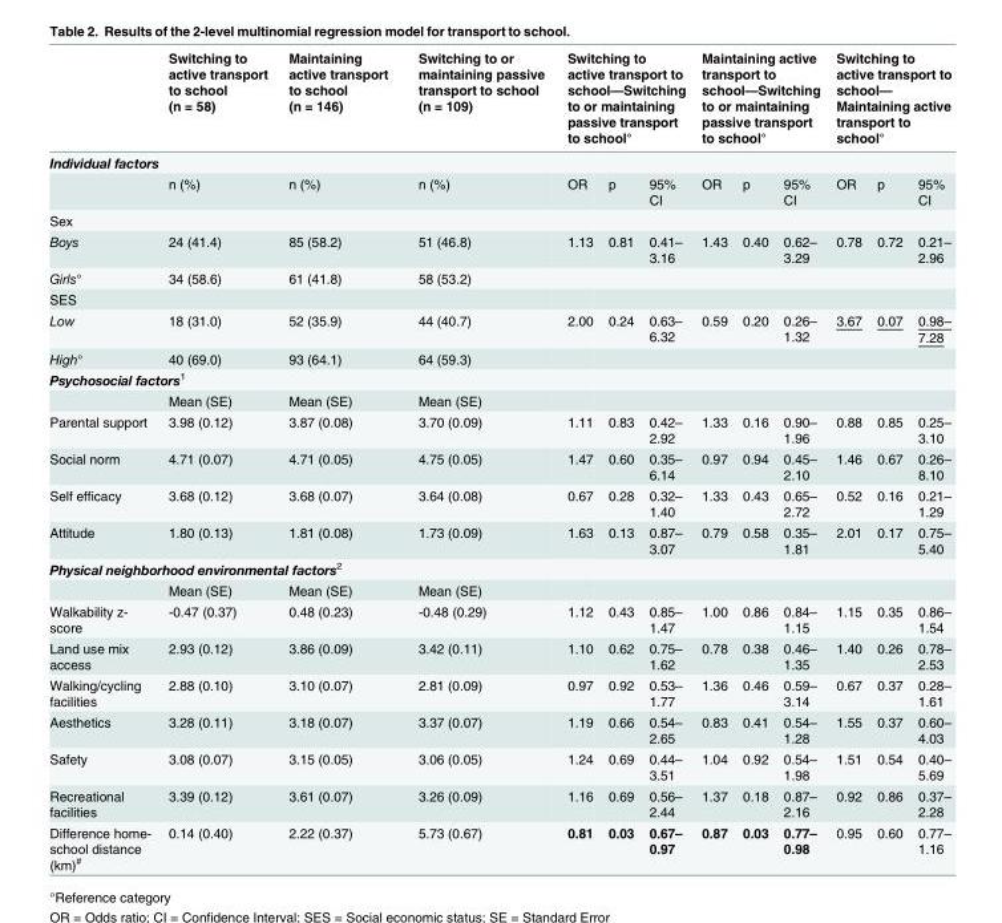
<table><thead><tr><td></td><td>Switching to active transport to school (n = 58)</td><td>Maintaining active transport to school (n = 146)</td><td>Switching to or maintaining passive transport to school (n = 109)</td><td colspan="3">Switching to active transport to school—Switching to or maintaining passive transport to school°</td><td colspan="3">Maintaining active transport to school—Switching to or maintaining passive transport to school°</td><td colspan="3">Switching to active transport to school— Maintaining active transport to school°</td></tr><tr><td colspan="4">Individual factors</td><td colspan="9"></td></tr><tr><td></td><td>n (%)</td><td>n (%)</td><td>n (%)</td><td>OR</td><td>p</td><td>95% CI</td><td>OR</td><td>p</td><td>95% CI</td><td>OR</td><td>p</td><td>95% CI</td></tr></thead><tbody><tr><td colspan="13">Sex</td></tr><tr><td>Boys</td><td>24 (41.4)</td><td>85 (58.2)</td><td>51 (46.8)</td><td>1.13</td><td>0.81</td><td>0.41– 3.16</td><td>1.43</td><td>0.40</td><td>0.62– 3.29</td><td>0.78</td><td>0.72</td><td>0.21– 2.96</td></tr><tr><td>Girls°</td><td>34 (58.6)</td><td>61 (41.8)</td><td>58 (53.2)</td><td></td><td></td><td></td><td></td><td></td><td></td><td></td><td></td><td></td></tr><tr><td colspan="13">SES</td></tr><tr><td>Low</td><td>18 (31.0)</td><td>52 (35.9)</td><td>44 (40.7)</td><td>2.00</td><td>0.24</td><td>0.63– 6.32</td><td>0.59</td><td>0.20</td><td>0.26– 1.32</td><td>3.67</td><td>0.07</td><td>0.98– 7.28</td></tr><tr><td>High°</td><td>40 (69.0)</td><td>93 (64.1)</td><td>64 (59.3)</td><td></td><td></td><td></td><td></td><td></td><td></td><td></td><td></td><td></td></tr><tr><td colspan="13">Psychosocial factors<sup>1</sup></td></tr><tr><td></td><td>Mean (SE)</td><td>Mean (SE)</td><td>Mean (SE)</td><td></td><td></td><td></td><td></td><td></td><td></td><td></td><td></td><td></td></tr><tr><td>Parental support</td><td>3.98 (0.12)</td><td>3.87 (0.08)</td><td>3.70 (0.09)</td><td>1.11</td><td>0.83</td><td>0.42– 2.92</td><td>1.33</td><td>0.16</td><td>0.90– 1.96</td><td>0.88</td><td>0.85</td><td>0.25– 3.10</td></tr><tr><td>Social norm</td><td>4.71 (0.07)</td><td>4.71 (0.05)</td><td>4.75 (0.05)</td><td>1.47</td><td>0.60</td><td>0.35– 6.14</td><td>0.97</td><td>0.94</td><td>0.45– 2.10</td><td>1.46</td><td>0.67</td><td>0.26– 8.10</td></tr><tr><td>Self efficacy</td><td>3.68 (0.12)</td><td>3.68 (0.07)</td><td>3.64 (0.08)</td><td>0.67</td><td>0.28</td><td>0.32– 1.40</td><td>1.33</td><td>0.43</td><td>0.65– 2.72</td><td>0.52</td><td>0.16</td><td>0.21– 1.29</td></tr><tr><td>Attitude</td><td>1.80 (0.13)</td><td>1.81 (0.08)</td><td>1.73 (0.09)</td><td>1.63</td><td>0.13</td><td>0.87– 3.07</td><td>0.79</td><td>0.58</td><td>0.35– 1.81</td><td>2.01</td><td>0.17</td><td>0.75– 5.40</td></tr><tr><td colspan="13">Physical neighborhood environmental factors<sup>2</sup></td></tr><tr><td></td><td>Mean (SE)</td><td>Mean (SE)</td><td>Mean (SE)</td><td></td><td></td><td></td><td></td><td></td><td></td><td></td><td></td><td></td></tr><tr><td>Walkability z- score</td><td>-0.47 (0.37)</td><td>0.48 (0.23)</td><td>-0.48 (0.29)</td><td>1.12</td><td>0.43</td><td>0.85– 1.47</td><td>1.00</td><td>0.86</td><td>0.84– 1.15</td><td>1.15</td><td>0.35</td><td>0.86– 1.54</td></tr><tr><td>Land use mix access</td><td>2.93 (0.12)</td><td>3.86 (0.09)</td><td>3.42 (0.11)</td><td>1.10</td><td>0.62</td><td>0.75– 1.62</td><td>0.78</td><td>0.38</td><td>0.46– 1.35</td><td>1.40</td><td>0.26</td><td>0.78– 2.53</td></tr><tr><td>Walking/cycling facilities</td><td>2.88 (0.10)</td><td>3.10 (0.07)</td><td>2.81 (0.09)</td><td>0.97</td><td>0.92</td><td>0.53– 1.77</td><td>1.36</td><td>0.46</td><td>0.59– 3.14</td><td>0.67</td><td>0.37</td><td>0.28– 1.61</td></tr><tr><td>Aesthetics</td><td>3.28 (0.11)</td><td>3.18 (0.07)</td><td>3.37 (0.07)</td><td>1.19</td><td>0.66</td><td>0.54– 2.65</td><td>0.83</td><td>0.41</td><td>0.54– 1.28</td><td>1.55</td><td>0.37</td><td>0.60– 4.03</td></tr><tr><td>Safety</td><td>3.08 (0.07)</td><td>3.15 (0.05)</td><td>3.06 (0.05)</td><td>1.24</td><td>0.69</td><td>0.44– 3.51</td><td>1.04</td><td>0.92</td><td>0.54– 1.98</td><td>1.51</td><td>0.54</td><td>0.40– 5.69</td></tr><tr><td>Recreational facilities</td><td>3.39 (0.12)</td><td>3.61 (0.07)</td><td>3.26 (0.09)</td><td>1.16</td><td>0.69</td><td>0.56– 2.44</td><td>1.37</td><td>0.18</td><td>0.87– 2.16</td><td>0.92</td><td>0.86</td><td>0.37– 2.28</td></tr><tr><td>Difference home- school distance (km)<sup>#</sup></td><td>0.14 (0.40)</td><td>2.22 (0.37)</td><td>5.73 (0.67)</td><td>0.81</td><td>0.03</td><td>0.67– 0.97</td><td>0.87</td><td>0.03</td><td>0.77– 0.98</td><td>0.95</td><td>0.60</td><td>0.77– 1.16</td></tr></tbody></table>